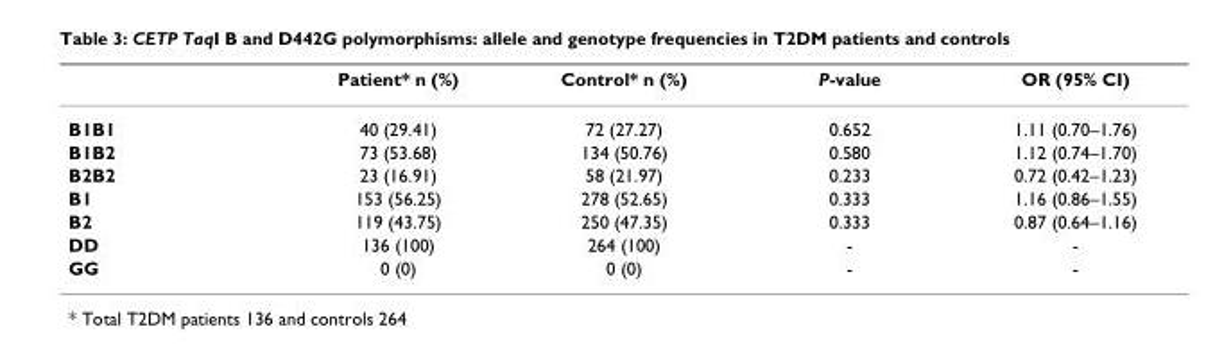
<table><thead><tr><td></td><td>Patient* n (%)</td><td>Control* n (%)</td><td>P-value</td><td>OR (95% CI)</td></tr></thead><tbody><tr><td>B1B1</td><td>40 (29.41)</td><td>72 (27.27)</td><td>0.652</td><td>1.11 (0.70–1.76)</td></tr><tr><td>B1B2</td><td>73 (53.68)</td><td>134 (50.76)</td><td>0.580</td><td>1.12 (0.74–1.70)</td></tr><tr><td>B2B2</td><td>23 (16.91)</td><td>58 (21.97)</td><td>0.233</td><td>0.72 (0.42–1.23)</td></tr><tr><td>B1</td><td>153 (56.25)</td><td>278 (52.65)</td><td>0.333</td><td>1.16 (0.86–1.55)</td></tr><tr><td>B2</td><td>119 (43.75)</td><td>250 (47.35)</td><td>0.333</td><td>0.87 (0.64–1.16)</td></tr><tr><td>DD</td><td>136 (100)</td><td>264 (100)</td><td>-</td><td>-</td></tr><tr><td>GG</td><td>0 (0)</td><td>0 (0)</td><td>-</td><td>-</td></tr></tbody></table>